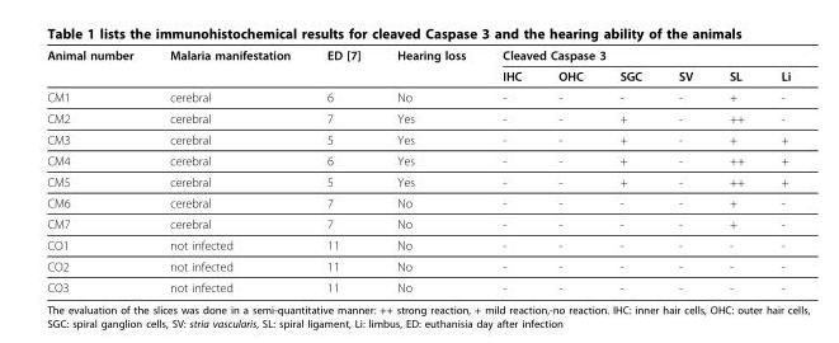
<table><thead><tr><td rowspan="2">Animal number</td><td rowspan="2">Malaria manifestation</td><td rowspan="2">ED [7]</td><td rowspan="2">Hearing loss</td><td colspan="6">Cleaved Caspase 3</td></tr><tr><td>IHC</td><td>OHC</td><td>SGC</td><td>SV</td><td>SL</td><td>Li</td></tr></thead><tbody><tr><td>CM1</td><td>cerebral</td><td>6</td><td>No</td><td>-</td><td>-</td><td>-</td><td>-</td><td>+</td><td>-</td></tr><tr><td>CM2</td><td>cerebral</td><td>7</td><td>Yes</td><td>-</td><td>-</td><td>+</td><td>-</td><td>++</td><td>-</td></tr><tr><td>CM3</td><td>cerebral</td><td>5</td><td>Yes</td><td>-</td><td>-</td><td>+</td><td>-</td><td>+</td><td>+</td></tr><tr><td>CM4</td><td>cerebral</td><td>6</td><td>Yes</td><td>-</td><td>-</td><td>+</td><td>-</td><td>++</td><td>+</td></tr><tr><td>CM5</td><td>cerebral</td><td>5</td><td>Yes</td><td>-</td><td>-</td><td>+</td><td>-</td><td>++</td><td>+</td></tr><tr><td>CM6</td><td>cerebral</td><td>7</td><td>No</td><td>-</td><td>-</td><td>-</td><td>-</td><td>+</td><td>-</td></tr><tr><td>CM7</td><td>cerebral</td><td>7</td><td>No</td><td>-</td><td>-</td><td>-</td><td>-</td><td>+</td><td>-</td></tr><tr><td>CO1</td><td>not infected</td><td>11</td><td>No</td><td>-</td><td>-</td><td>-</td><td>-</td><td>-</td><td>-</td></tr><tr><td>CO2</td><td>not infected</td><td>11</td><td>No</td><td>-</td><td>-</td><td>-</td><td>-</td><td>-</td><td>-</td></tr><tr><td>CO3</td><td>not infected</td><td>11</td><td>No</td><td>-</td><td>-</td><td>-</td><td>-</td><td>-</td><td>-</td></tr></tbody></table>